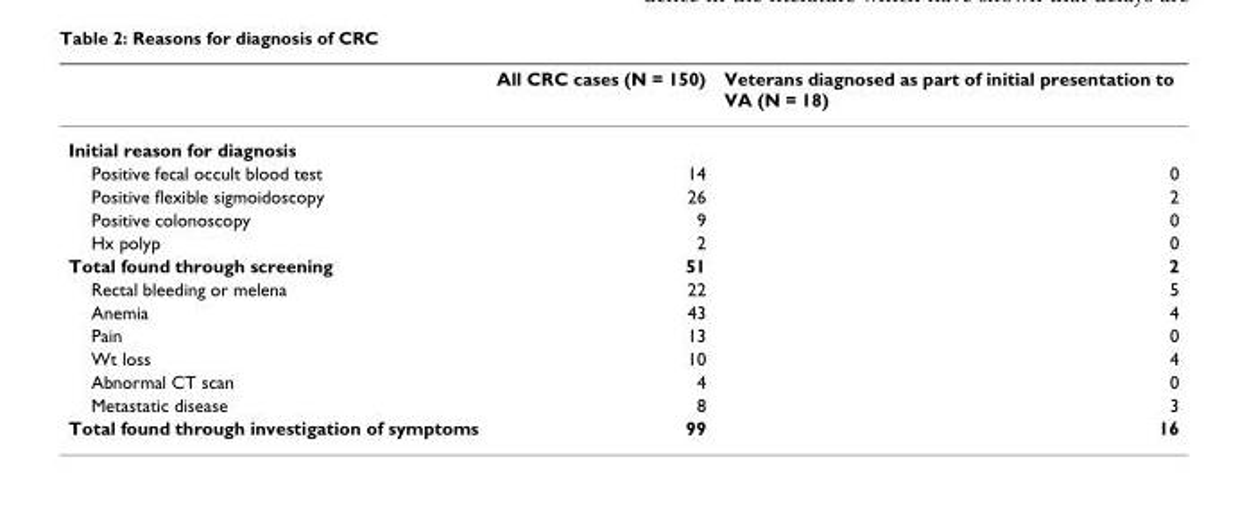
<table><thead><tr><td></td><td>All CRC cases (N = 150)</td><td>Veterans diagnosed as part of initial presentation to VA (N = 18)</td></tr></thead><tbody><tr><td colspan="3">Initial reason for diagnosis</td></tr><tr><td>Positive fecal occult blood test</td><td>14</td><td>0</td></tr><tr><td>Positive flexible sigmoidoscopy</td><td>26</td><td>2</td></tr><tr><td>Positive colonoscopy</td><td>9</td><td>0</td></tr><tr><td>Hx polyp</td><td>2</td><td>0</td></tr><tr><td>Total found through screening</td><td>51</td><td>2</td></tr><tr><td>Rectal bleeding or melena</td><td>22</td><td>5</td></tr><tr><td>Anemia</td><td>43</td><td>4</td></tr><tr><td>Pain</td><td>13</td><td>0</td></tr><tr><td>Wt loss</td><td>10</td><td>4</td></tr><tr><td>Abnormal CT scan</td><td>4</td><td>0</td></tr><tr><td>Metastatic disease</td><td>8</td><td>3</td></tr><tr><td>Total found through investigation of symptoms</td><td>99</td><td>16</td></tr></tbody></table>